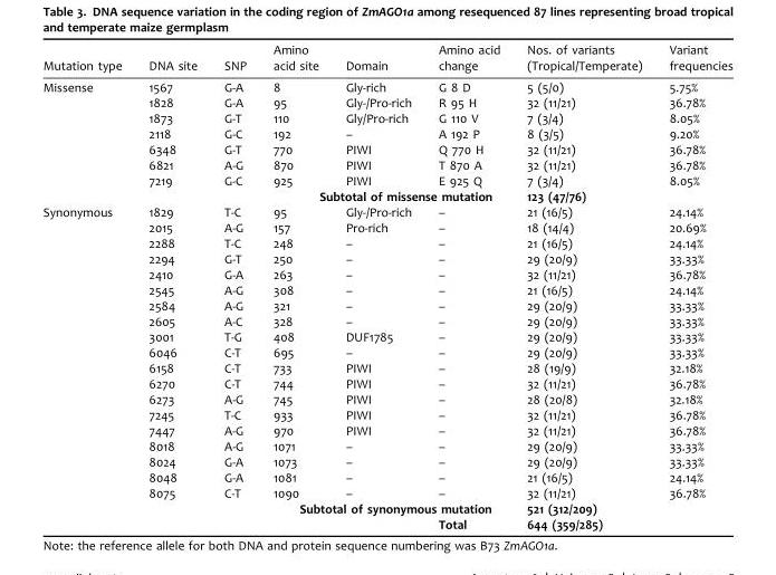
<table><thead><tr><td>Mutation type</td><td>DNA site</td><td>SNP</td><td>Amino acid site</td><td>Domain</td><td>Amino acid change</td><td>Nos. of variants (Tropical/Temperate)</td><td>Variant frequencies</td></tr></thead><tbody><tr><td rowspan="8">Missense</td><td>1567</td><td>G-A</td><td>8</td><td>Gly-rich</td><td>G 8 D</td><td>5 (5/0)</td><td>5.75%</td></tr><tr><td>1828</td><td>G-A</td><td>95</td><td>Gly-/Pro-rich</td><td>R 95 H</td><td>32 (11/21)</td><td>36.78%</td></tr><tr><td>1873</td><td>G-T</td><td>110</td><td>Gly/Pro-rich</td><td>G 110 V</td><td>7 (3/4)</td><td>8.05%</td></tr><tr><td>2118</td><td>G-C</td><td>192</td><td>–</td><td>A 192 P</td><td>8 (3/5)</td><td>9.20%</td></tr><tr><td>6348</td><td>G-T</td><td>770</td><td>PIWI</td><td>Q 770 H</td><td>32 (11/21)</td><td>36.78%</td></tr><tr><td>6821</td><td>A-G</td><td>870</td><td>PIWI</td><td>T 870 A</td><td>32 (11/21)</td><td>36.78%</td></tr><tr><td>7219</td><td>G-C</td><td>925</td><td>PIWI</td><td>E 925 Q</td><td>7 (3/4)</td><td>8.05%</td></tr><tr><td colspan="5">Subtotal of missense mutation</td><td>123 (47/76)</td><td></td></tr><tr><td rowspan="21">Synonymous</td><td>1829</td><td>T-C</td><td>95</td><td>Gly-/Pro-rich</td><td>–</td><td>21 (16/5)</td><td>24.14%</td></tr><tr><td>2015</td><td>A-G</td><td>157</td><td>Pro-rich</td><td>–</td><td>18 (14/4)</td><td>20.69%</td></tr><tr><td>2288</td><td>T-C</td><td>248</td><td>–</td><td>–</td><td>21 (16/5)</td><td>24.14%</td></tr><tr><td>2294</td><td>G-T</td><td>250</td><td>–</td><td>–</td><td>29 (20/9)</td><td>33.33%</td></tr><tr><td>2410</td><td>G-A</td><td>263</td><td>–</td><td>–</td><td>32 (11/21)</td><td>36.78%</td></tr><tr><td>2545</td><td>A-G</td><td>308</td><td>–</td><td>–</td><td>21 (16/5)</td><td>24.14%</td></tr><tr><td>2584</td><td>A-G</td><td>321</td><td>–</td><td>–</td><td>29 (20/9)</td><td>33.33%</td></tr><tr><td>2605</td><td>A-C</td><td>328</td><td>–</td><td>–</td><td>29 (20/9)</td><td>33.33%</td></tr><tr><td>3001</td><td>T-G</td><td>408</td><td>DUF1785</td><td>–</td><td>29 (20/9)</td><td>33.33%</td></tr><tr><td>6046</td><td>C-T</td><td>695</td><td>–</td><td>–</td><td>29 (20/9)</td><td>33.33%</td></tr><tr><td>6158</td><td>C-T</td><td>733</td><td>PIWI</td><td>–</td><td>28 (19/9)</td><td>32.18%</td></tr><tr><td>6270</td><td>C-T</td><td>744</td><td>PIWI</td><td>–</td><td>32 (11/21)</td><td>36.78%</td></tr><tr><td>6273</td><td>A-G</td><td>745</td><td>PIWI</td><td>–</td><td>28 (20/8)</td><td>32.18%</td></tr><tr><td>7245</td><td>T-C</td><td>933</td><td>PIWI</td><td>–</td><td>32 (11/21)</td><td>36.78%</td></tr><tr><td>7447</td><td>A-G</td><td>970</td><td>PIWI</td><td>–</td><td>32 (11/21)</td><td>36.78%</td></tr><tr><td>8018</td><td>A-G</td><td>1071</td><td>–</td><td>–</td><td>29 (20/9)</td><td>33.33%</td></tr><tr><td>8024</td><td>G-A</td><td>1073</td><td>–</td><td>–</td><td>29 (20/9)</td><td>33.33%</td></tr><tr><td>8048</td><td>G-A</td><td>1081</td><td>–</td><td>–</td><td>21 (16/5)</td><td>24.14%</td></tr><tr><td>8075</td><td>C-T</td><td>1090</td><td>–</td><td>–</td><td>32 (11/21)</td><td>36.78%</td></tr><tr><td colspan="5">Subtotal of synonymous mutation</td><td>521 (312/209)</td><td></td></tr><tr><td></td><td></td><td></td><td></td><td>Total</td><td>644 (359/285)</td><td></td></tr></tbody></table>